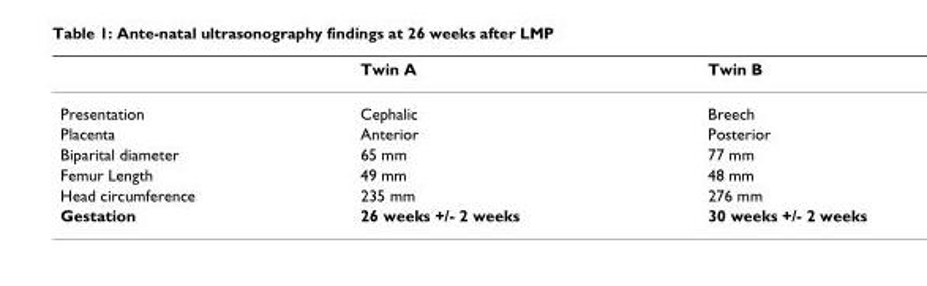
<table><thead><tr><td></td><td>Twin A</td><td>Twin B</td></tr></thead><tbody><tr><td>Presentation</td><td>Cephalic</td><td>Breech</td></tr><tr><td>Placenta</td><td>Anterior</td><td>Posterior</td></tr><tr><td>Biparital diameter</td><td>65 mm</td><td>77 mm</td></tr><tr><td>Femur Length</td><td>49 mm</td><td>48 mm</td></tr><tr><td>Head circumference</td><td>235 mm</td><td>276 mm</td></tr><tr><td>Gestation</td><td>26 weeks +/- 2 weeks</td><td>30 weeks +/- 2 weeks</td></tr></tbody></table>